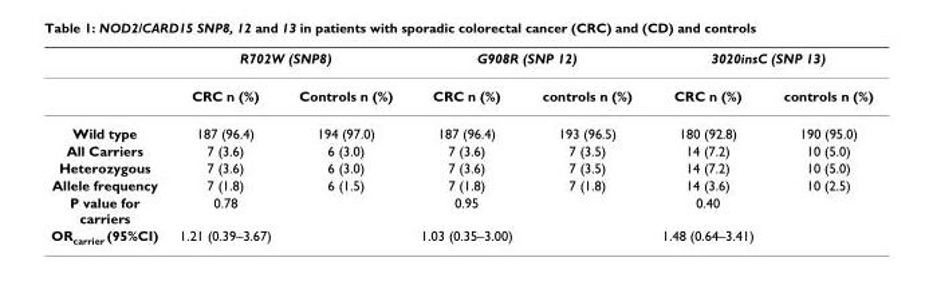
<table><thead><tr><td rowspan="2"></td><td colspan="2">R702W (SNP8)</td><td colspan="2">G908R (SNP 12)</td><td colspan="2">3020insC (SNP 13)</td></tr><tr><td>CRC n (%)</td><td>Controls n (%)</td><td>CRC n (%)</td><td>controls n (%)</td><td>CRC n (%)</td><td>controls n (%)</td></tr></thead><tbody><tr><td>Wild type</td><td>187 (96.4)</td><td>194 (97.0)</td><td>187 (96.4)</td><td>193 (96.5)</td><td>180 (92.8)</td><td>190 (95.0)</td></tr><tr><td>All Carriers</td><td>7 (3.6)</td><td>6 (3.0)</td><td>7 (3.6)</td><td>7 (3.5)</td><td>14 (7.2)</td><td>10 (5.0)</td></tr><tr><td>Heterozygous</td><td>7 (3.6)</td><td>6 (3.0)</td><td>7 (3.6)</td><td>7 (3.5)</td><td>14 (7.2)</td><td>10 (5.0)</td></tr><tr><td>Allele frequency</td><td>7 (1.8)</td><td>6 (1.5)</td><td>7 (1.8)</td><td>7 (1.8)</td><td>14 (3.6)</td><td>10 (2.5)</td></tr><tr><td>P value for carriers</td><td>0.78</td><td></td><td>0.95</td><td></td><td>0.40</td><td></td></tr><tr><td>ORcarrier (95%CI)</td><td>1.21 (0.39–3.67)</td><td></td><td>1.03 (0.35–3.00)</td><td></td><td>1.48 (0.64–3.41)</td><td></td></tr></tbody></table>